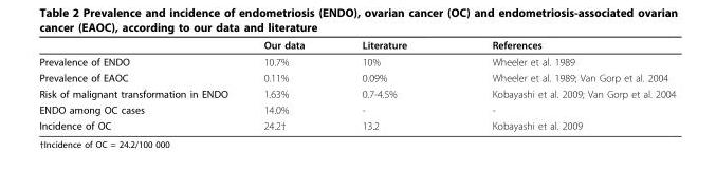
<table><thead><tr><td></td><td>Our data</td><td>Literature</td><td>References</td></tr></thead><tbody><tr><td>Prevalence of ENDO</td><td>10.7%</td><td>10%</td><td>Wheeler et al. 1989</td></tr><tr><td>Prevalence of EAOC</td><td>0.11%</td><td>0.09%</td><td>Wheeler et al. 1989; Van Gorp et al. 2004</td></tr><tr><td>Risk of malignant transformation in ENDO</td><td>1.63%</td><td>0.7-4.5%</td><td>Kobayashi et al. 2009; Van Gorp et al. 2004</td></tr><tr><td>ENDO among OC cases</td><td>14.0%</td><td>-</td><td>-</td></tr><tr><td>Incidence of OC</td><td>24.2†</td><td>13.2</td><td>Kobayashi et al. 2009</td></tr></tbody></table>